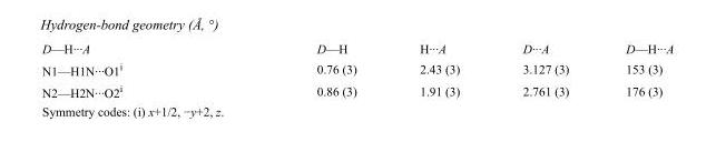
<table><tbody><tr><td>D—H···A</td><td>D—H</td><td>H···A</td><td>D···A</td><td>D—H···A</td></tr><tr><td>N1—H1N···O1<sup>i</sup></td><td>0.76 (3)</td><td>2.43 (3)</td><td>3.127 (3)</td><td>153 (3)</td></tr><tr><td>N2—H2N···O2<sup>i</sup></td><td>0.86 (3)</td><td>1.91 (3)</td><td>2.761 (3)</td><td>176 (3)</td></tr></tbody></table>